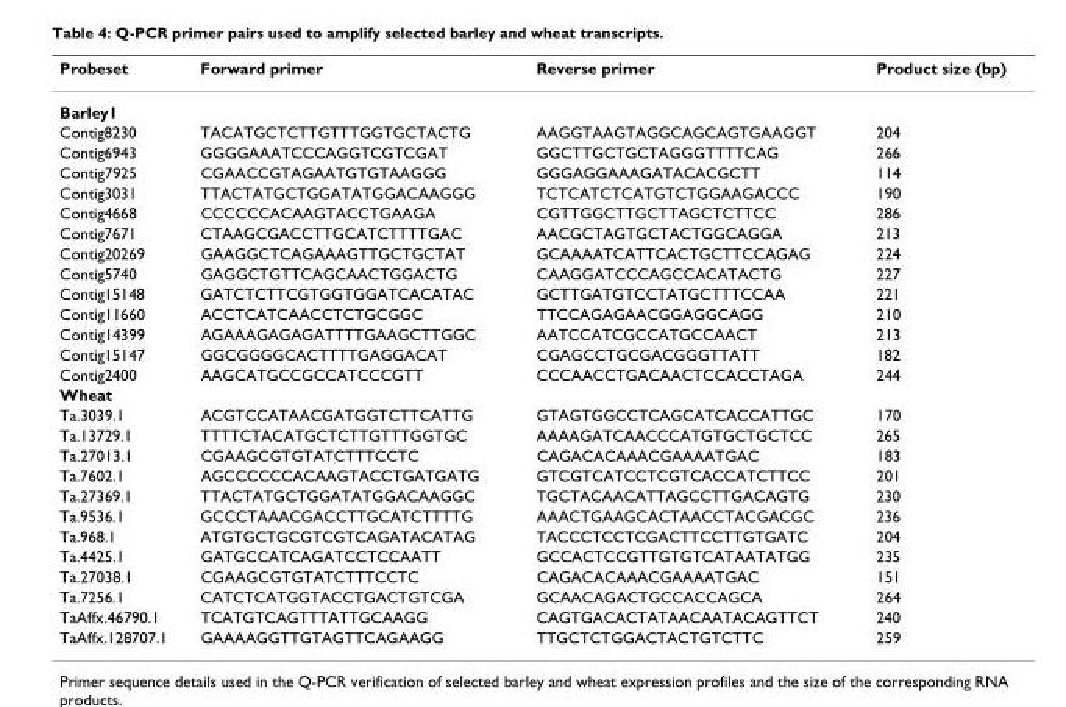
<table><thead><tr><td>Probeset</td><td>Forward primer</td><td>Reverse primer</td><td>Product size (bp)</td></tr></thead><tbody><tr><td colspan="4">Barley1</td></tr><tr><td>Contig8230</td><td>TACATGCTCTTGTTTGGTGCTACTG</td><td>AAGGTAAGTAGGCAGCAGTGAAGGT</td><td>204</td></tr><tr><td>Contig6943</td><td>GGGGAAATCCCAGGTCGTCGAT</td><td>GGCTTGCTGCTAGGGTTTTCAG</td><td>266</td></tr><tr><td>Contig7925</td><td>CGAACCGTAGAATGTGTAAGGG</td><td>GGGAGGAAAGATACACGCTT</td><td>114</td></tr><tr><td>Contig3031</td><td>TTACTATGCTGGATATGGACAAGGG</td><td>TCTCATCTCATGTCTGGAAGACCC</td><td>190</td></tr><tr><td>Contig4668</td><td>CCCCCCACAAGTACCTGAAGA</td><td>CGTTGGCTTGCTTAGCTCTTCC</td><td>286</td></tr><tr><td>Contig7671</td><td>CTAAGCGACCTTGCATCTTTTGAC</td><td>AACGCTAGTGCTACTGGCAGGA</td><td>213</td></tr><tr><td>Contig20269</td><td>GAAGGCTCAGAAAGTTGCTGCTAT</td><td>GCAAAATCATTCACTGCTTCCAGAG</td><td>224</td></tr><tr><td>Contig5740</td><td>GAGGCTGTTCAGCAACTGGACTG</td><td>CAAGGATCCCAGCCACATACTG</td><td>227</td></tr><tr><td>Contig15148</td><td>GATCTCTTCGTGGTGGATCACATAC</td><td>GCTTGATGTCCTATGCTTTCCAA</td><td>221</td></tr><tr><td>Contig11660</td><td>ACCTCATCAACCTCTGCGGC</td><td>TTCCAGAGAACGGAGGCAGG</td><td>210</td></tr><tr><td>Contig14399</td><td>AGAAAGAGAGATTTTGAAGCTTGGC</td><td>AATCCATCGCCATGCCAACT</td><td>213</td></tr><tr><td>Contig15147</td><td>GGCGGGGCACTTTTGAGGACAT</td><td>CGAGCCTGCGACGGGTTATT</td><td>182</td></tr><tr><td>Contig2400</td><td>AAGCATGCCGCCATCCCGTT</td><td>CCCAACCTGACAACTCCACCTAGA</td><td>244</td></tr><tr><td colspan="4">Wheat</td></tr><tr><td>Ta.3039.1</td><td>ACGTCCATAACGATGGTCTTCATTG</td><td>GTAGTGGCCTCAGCATCACCATTGC</td><td>170</td></tr><tr><td>Ta.13729.1</td><td>TTTTCTACATGCTCTTGTTTGGTGC</td><td>AAAAGATCAACCCATGTGCTGCTCC</td><td>265</td></tr><tr><td>Ta.27013.1</td><td>CGAAGCGTGTATCTTTCCTC</td><td>CAGACACAAACGAAAATGAC</td><td>183</td></tr><tr><td>Ta.7602.1</td><td>AGCCCCCCACAAGTACCTGATGATG</td><td>GTCGTCATCCTCGTCACCATCTTCC</td><td>201</td></tr><tr><td>Ta.27369.1</td><td>TTACTATGCTGGATATGGACAAGGC</td><td>TGCTACAACATTAGCCTTGACAGTG</td><td>230</td></tr><tr><td>Ta.9536.1</td><td>GCCCTAAACGACCTTGCATCTTTTG</td><td>AAACTGAAGCACTAACCTACGACGC</td><td>236</td></tr><tr><td>Ta.968.1</td><td>ATGTGCTGCGTCGTCAGATACATAG</td><td>TACCCTCCTCGACTTCCTTGTGATC</td><td>204</td></tr><tr><td>Ta.4425.1</td><td>GATGCCATCAGATCCTCCAATT</td><td>GCCACTCCGTTGTGTCATAATATGG</td><td>235</td></tr><tr><td>Ta.27038.1</td><td>CGAAGCGTGTATCTTTCCTC</td><td>CAGACACAAACGAAAATGAC</td><td>151</td></tr><tr><td>Ta.7256.1</td><td>CATCTCATGGTACCTGACTGTCGA</td><td>GCAACAGACTGCCACCAGCA</td><td>264</td></tr><tr><td>TaAffx.46790.1</td><td>TCATGTCAGTTTATTGCAAGG</td><td>CAGTGACACTATAACAATACAGTTCT</td><td>240</td></tr><tr><td>TaAffx.128707.1</td><td>GAAAAGGTTGTAGTTCAGAAGG</td><td>TTGCTCTGGACTACTGTCTTC</td><td>259</td></tr></tbody></table>